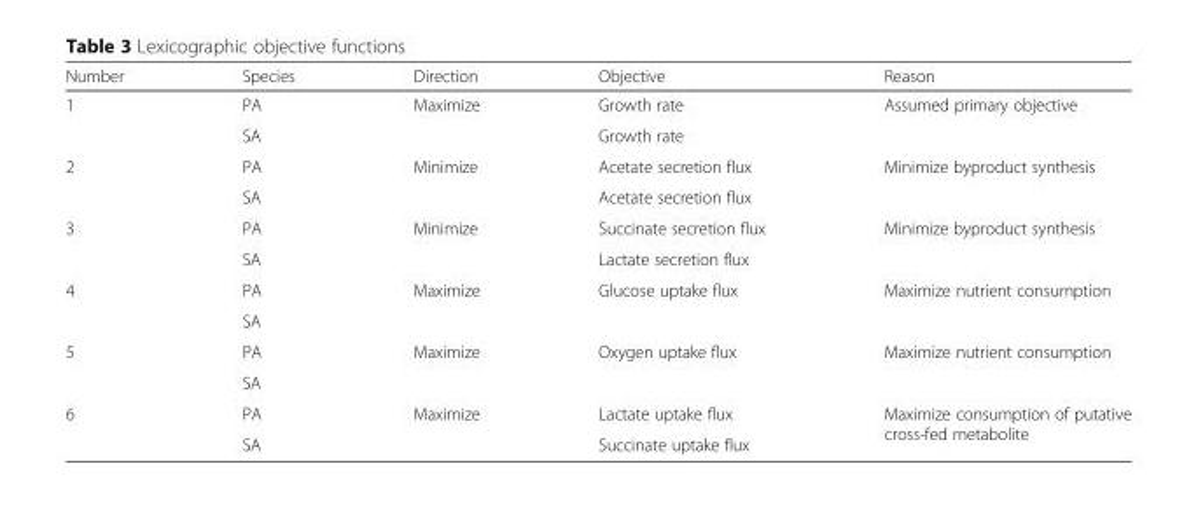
<table><thead><tr><td>Number</td><td>Species</td><td>Direction</td><td>Objective</td><td>Reason</td></tr></thead><tbody><tr><td rowspan="2">1</td><td>PA</td><td rowspan="2">Maximize</td><td>Growth rate</td><td rowspan="2">Assumed primary objective</td></tr><tr><td>SA</td><td>Growth rate</td></tr><tr><td rowspan="2">2</td><td>PA</td><td rowspan="2">Minimize</td><td>Acetate secretion flux</td><td rowspan="2">Minimize byproduct synthesis</td></tr><tr><td>SA</td><td>Acetate secretion flux</td></tr><tr><td rowspan="2">3</td><td>PA</td><td rowspan="2">Minimize</td><td>Succinate secretion flux</td><td rowspan="2">Minimize byproduct synthesis</td></tr><tr><td>SA</td><td>Lactate secretion flux</td></tr><tr><td rowspan="2">4</td><td>PA</td><td rowspan="2">Maximize</td><td rowspan="2">Glucose uptake flux</td><td rowspan="2">Maximize nutrient consumption</td></tr><tr><td>SA</td></tr><tr><td rowspan="2">5</td><td>PA</td><td rowspan="2">Maximize</td><td rowspan="2">Oxygen uptake flux</td><td rowspan="2">Maximize nutrient consumption</td></tr><tr><td>SA</td></tr><tr><td rowspan="2">6</td><td>PA</td><td rowspan="2">Maximize</td><td>Lactate uptake flux</td><td rowspan="2">Maximize consumption of putative cross-fed metabolite</td></tr><tr><td>SA</td><td>Succinate uptake flux</td></tr></tbody></table>